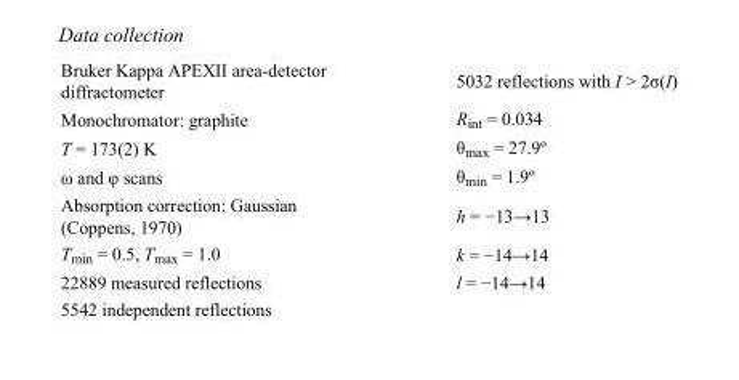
<table><tbody><tr><td>Bruker Kappa APEXII area-detector diffractometer</td><td>5032 reflections with I &gt; 2σ(I)</td></tr><tr><td>Monochromator: graphite</td><td>R<sub>int</sub> = 0.034</td></tr><tr><td>T = 173(2) K</td><td>θ<sub>max</sub> = 27.9º</td></tr><tr><td>ω and φ scans</td><td>θ<sub>min</sub> = 1.9º</td></tr><tr><td>Absorption correction: Gaussian (Coppens, 1970)</td><td>h = −13→13</td></tr><tr><td>T<sub>min</sub> = 0.5, T<sub>max</sub> = 1.0</td><td>k = −14→14</td></tr><tr><td>22889 measured reflections</td><td>l = −14→14</td></tr><tr><td>5542 independent reflections</td><td></td></tr></tbody></table>